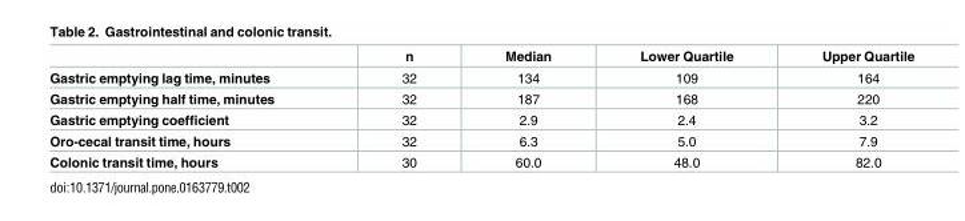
<table><thead><tr><td></td><td>n</td><td>Median</td><td>Lower Quartile</td><td>Upper Quartile</td></tr></thead><tbody><tr><td>Gastric emptying lag time, minutes</td><td>32</td><td>134</td><td>109</td><td>164</td></tr><tr><td>Gastric emptying half time, minutes</td><td>32</td><td>187</td><td>168</td><td>220</td></tr><tr><td>Gastric emptying coefficient</td><td>32</td><td>2.9</td><td>2.4</td><td>3.2</td></tr><tr><td>Oro-cecal transit time, hours</td><td>32</td><td>6.3</td><td>5.0</td><td>7.9</td></tr><tr><td>Colonic transit time, hours</td><td>30</td><td>60.0</td><td>48.0</td><td>82.0</td></tr></tbody></table>